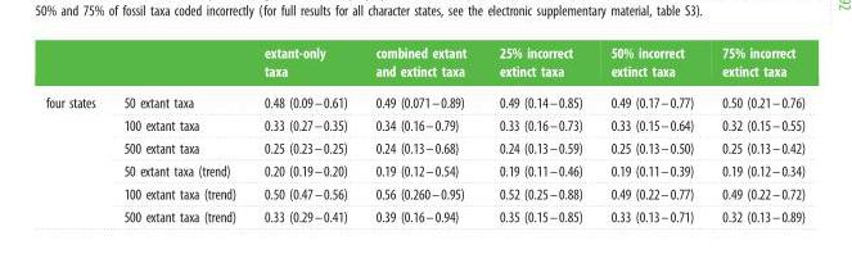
<table><thead><tr><td></td><td></td><td>extant-only taxa</td><td>combined extant and extinct taxa</td><td>25% incorrect extinct taxa</td><td>50% incorrect extinct taxa</td><td>75% incorrect extinct taxa</td></tr></thead><tbody><tr><td rowspan="6">four states</td><td>50 extant taxa</td><td>0.48 (0.09–0.61)</td><td>0.49 (0.071–0.89)</td><td>0.49 (0.14–0.85)</td><td>0.49 (0.17–0.77)</td><td>0.50 (0.21–0.76)</td></tr><tr><td>100 extant taxa</td><td>0.33 (0.27–0.35)</td><td>0.34 (0.16–0.79)</td><td>0.33 (0.16–0.73)</td><td>0.33 (0.15–0.64)</td><td>0.32 (0.15–0.55)</td></tr><tr><td>500 extant taxa</td><td>0.25 (0.23–0.25)</td><td>0.24 (0.13–0.68)</td><td>0.24 (0.13–0.59)</td><td>0.25 (0.13–0.50)</td><td>0.25 (0.13–0.42)</td></tr><tr><td>50 extant taxa (trend)</td><td>0.20 (0.19–0.20)</td><td>0.19 (0.12–0.54)</td><td>0.19 (0.11–0.46)</td><td>0.19 (0.11–0.39)</td><td>0.19 (0.12–0.34)</td></tr><tr><td>100 extant taxa (trend)</td><td>0.50 (0.47–0.56)</td><td>0.56 (0.260–0.95)</td><td>0.52 (0.25–0.88)</td><td>0.49 (0.22–0.77)</td><td>0.49 (0.22–0.72)</td></tr><tr><td>500 extant taxa (trend)</td><td>0.33 (0.29–0.41)</td><td>0.39 (0.16–0.94)</td><td>0.35 (0.15–0.85)</td><td>0.33 (0.13–0.71)</td><td>0.32 (0.13–0.89)</td></tr></tbody></table>